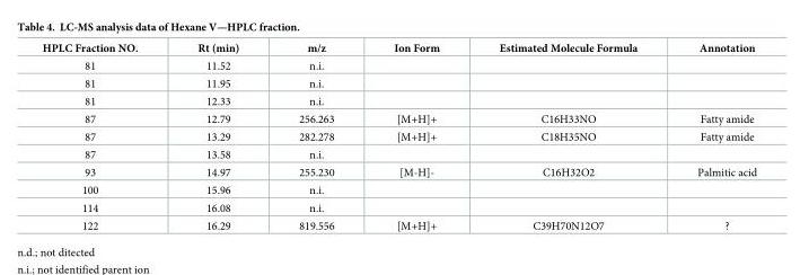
<table><thead><tr><td>HPLC Fraction NO.</td><td>Rt (min)</td><td>m/z</td><td>Ion Form</td><td>Estimated Molecule Formula</td><td>Annotation</td></tr></thead><tbody><tr><td>81</td><td>11.52</td><td>n.i.</td><td></td><td></td><td></td></tr><tr><td>81</td><td>11.95</td><td>n.i.</td><td></td><td></td><td></td></tr><tr><td>81</td><td>12.33</td><td>n.i.</td><td></td><td></td><td></td></tr><tr><td>87</td><td>12.79</td><td>256.263</td><td>[M+H]+</td><td>C16H33NO</td><td>Fatty amide</td></tr><tr><td>87</td><td>13.29</td><td>282.278</td><td>[M+H]+</td><td>C18H35NO</td><td>Fatty amide</td></tr><tr><td>87</td><td>13.58</td><td>n.i.</td><td></td><td></td><td></td></tr><tr><td>93</td><td>14.97</td><td>255.230</td><td>[M-H]-</td><td>C16H32O2</td><td>Palmitic acid</td></tr><tr><td>100</td><td>15.96</td><td>n.i.</td><td></td><td></td><td></td></tr><tr><td>114</td><td>16.08</td><td>n.i.</td><td></td><td></td><td></td></tr><tr><td>122</td><td>16.29</td><td>819.556</td><td>[M+H]+</td><td>C39H70N12O7</td><td>?</td></tr></tbody></table>